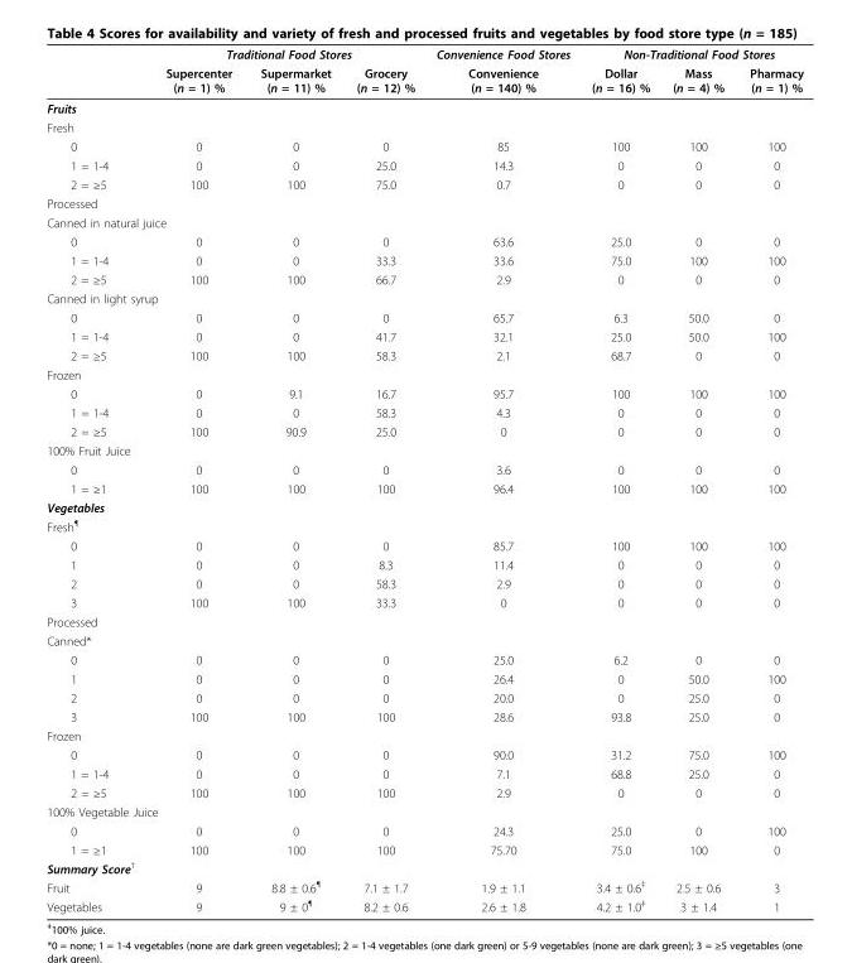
<table><thead><tr><td rowspan="2"></td><td colspan="3">Traditional Food Stores</td><td rowspan="2">Convenience Food Stores Convenience (n = 140) %</td><td colspan="3">Non-Traditional Food Stores</td></tr><tr><td>Supercenter (n = 1) %</td><td>Supermarket (n = 11) %</td><td>Grocery (n = 12) %</td><td>Dollar (n = 16) %</td><td>Mass (n = 4) %</td><td>Pharmacy (n = 1) %</td></tr></thead><tbody><tr><td colspan="8">Fruits</td></tr><tr><td colspan="8">Fresh</td></tr><tr><td>0</td><td>0</td><td>0</td><td>0</td><td>85</td><td>100</td><td>100</td><td>100</td></tr><tr><td>1 = 1-4</td><td>0</td><td>0</td><td>25.0</td><td>14.3</td><td>0</td><td>0</td><td>0</td></tr><tr><td>2 = ≥5</td><td>100</td><td>100</td><td>75.0</td><td>0.7</td><td>0</td><td>0</td><td>0</td></tr><tr><td colspan="8">Processed</td></tr><tr><td colspan="8">Canned in natural juice</td></tr><tr><td>0</td><td>0</td><td>0</td><td>0</td><td>63.6</td><td>25.0</td><td>0</td><td>0</td></tr><tr><td>1 = 1-4</td><td>0</td><td>0</td><td>33.3</td><td>33.6</td><td>75.0</td><td>100</td><td>100</td></tr><tr><td>2 = ≥5</td><td>100</td><td>100</td><td>66.7</td><td>2.9</td><td>0</td><td>0</td><td>0</td></tr><tr><td colspan="8">Canned in light syrup</td></tr><tr><td>0</td><td>0</td><td>0</td><td>0</td><td>65.7</td><td>6.3</td><td>50.0</td><td>0</td></tr><tr><td>1 = 1-4</td><td>0</td><td>0</td><td>41.7</td><td>32.1</td><td>25.0</td><td>50.0</td><td>100</td></tr><tr><td>2 = ≥5</td><td>100</td><td>100</td><td>58.3</td><td>2.1</td><td>68.7</td><td>0</td><td>0</td></tr><tr><td colspan="8">Frozen</td></tr><tr><td>0</td><td>0</td><td>9.1</td><td>16.7</td><td>95.7</td><td>100</td><td>100</td><td>100</td></tr><tr><td>1 = 1-4</td><td>0</td><td>0</td><td>58.3</td><td>4.3</td><td>0</td><td>0</td><td>0</td></tr><tr><td>2 = ≥5</td><td>100</td><td>90.9</td><td>25.0</td><td>0</td><td>0</td><td>0</td><td>0</td></tr><tr><td colspan="8">100% Fruit Juice</td></tr><tr><td>0</td><td>0</td><td>0</td><td>0</td><td>3.6</td><td>0</td><td>0</td><td>0</td></tr><tr><td>1 = ≥1</td><td>100</td><td>100</td><td>100</td><td>96.4</td><td>100</td><td>100</td><td>100</td></tr><tr><td colspan="8">Vegetables</td></tr><tr><td colspan="8">Fresh<sup>¶</sup></td></tr><tr><td>0</td><td>0</td><td>0</td><td>0</td><td>85.7</td><td>100</td><td>100</td><td>100</td></tr><tr><td>1</td><td>0</td><td>0</td><td>8.3</td><td>11.4</td><td>0</td><td>0</td><td>0</td></tr><tr><td>2</td><td>0</td><td>0</td><td>58.3</td><td>2.9</td><td>0</td><td>0</td><td>0</td></tr><tr><td>3</td><td>100</td><td>100</td><td>33.3</td><td>0</td><td>0</td><td>0</td><td>0</td></tr><tr><td colspan="8">Processed</td></tr><tr><td colspan="8">Canned*</td></tr><tr><td>0</td><td>0</td><td>0</td><td>0</td><td>25.0</td><td>6.2</td><td>0</td><td>0</td></tr><tr><td>1</td><td>0</td><td>0</td><td>0</td><td>26.4</td><td>0</td><td>50.0</td><td>100</td></tr><tr><td>2</td><td>0</td><td>0</td><td>0</td><td>20.0</td><td>0</td><td>25.0</td><td>0</td></tr><tr><td>3</td><td>100</td><td>100</td><td>100</td><td>28.6</td><td>93.8</td><td>25.0</td><td>0</td></tr><tr><td colspan="8">Frozen</td></tr><tr><td>0</td><td>0</td><td>0</td><td>0</td><td>90.0</td><td>31.2</td><td>75.0</td><td>100</td></tr><tr><td>1 = 1-4</td><td>0</td><td>0</td><td>0</td><td>7.1</td><td>68.8</td><td>25.0</td><td>0</td></tr><tr><td>2 = ≥5</td><td>100</td><td>100</td><td>100</td><td>2.9</td><td>0</td><td>0</td><td>0</td></tr><tr><td colspan="8">100% Vegetable Juice</td></tr><tr><td>0</td><td>0</td><td>0</td><td>0</td><td>24.3</td><td>25.0</td><td>0</td><td>100</td></tr><tr><td>1 = ≥1</td><td>100</td><td>100</td><td>100</td><td>75.70</td><td>75.0</td><td>100</td><td>0</td></tr><tr><td colspan="8">Summary Score<sup>†</sup></td></tr><tr><td>Fruit</td><td>9</td><td>8.8 ± 0.6<sup>¶</sup></td><td>7.1 ± 1.7</td><td>1.9 ± 1.1</td><td>3.4 ± 0.6<sup>‡</sup></td><td>2.5 ± 0.6</td><td>3</td></tr><tr><td>Vegetables</td><td>9</td><td>9 ± 0<sup>¶</sup></td><td>8.2 ± 0.6</td><td>2.6 ± 1.8</td><td>4.2 ± 1.0<sup>‡</sup></td><td>3 ± 1.4</td><td>1</td></tr></tbody></table>